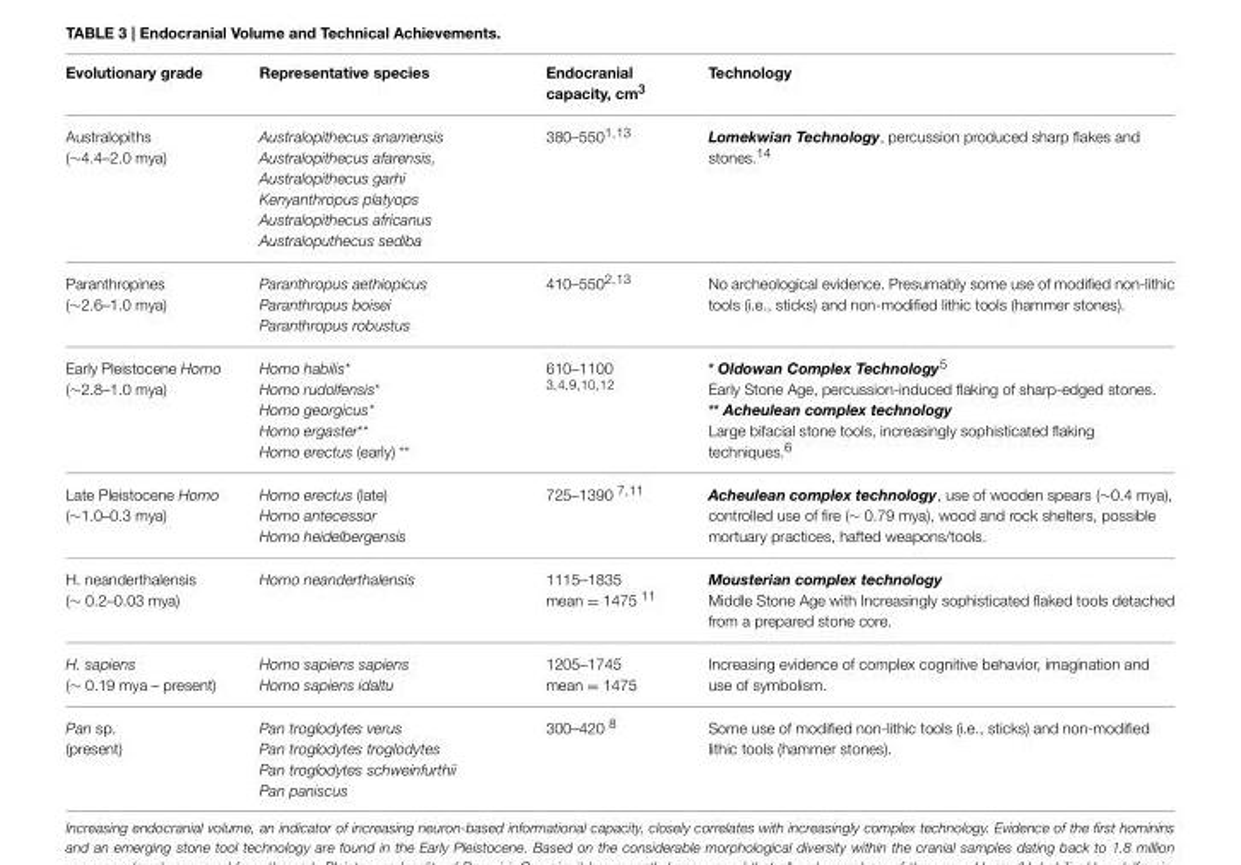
<table><thead><tr><td>Evolutionary grade</td><td>Representative species</td><td>Endocranial capacity, cm<sup>3</sup></td><td>Technology</td></tr></thead><tbody><tr><td>Australopiths (∼4.4–2.0 mya)</td><td>Australopithecus anamensis Australopithecus afarensis, Australopithecus garhi Kenyanthropus platyops Australopithecus africanus Australoputhecus sediba</td><td>380–550<sup>1,13</sup></td><td>Lomekwian Technology, percussion produced sharp flakes and stones.<sup>14</sup></td></tr><tr><td>Paranthropines (∼2.6–1.0 mya)</td><td>Paranthropus aethiopicus Paranthropus boisei Paranthropus robustus</td><td>410–550<sup>2,13</sup></td><td>No archeological evidence. Presumably some use of modified non-lithic tools (i.e., sticks) and non-modified lithic tools (hammer stones).</td></tr><tr><td>Early Pleistocene Homo (∼2.8–1.0 mya)</td><td>Homo habilis* Homo rudolfensis* Homo georgicus* Homo ergaster** Homo erectus (early) **</td><td>610–1100 <sup>3,4,9,10,12</sup></td><td>* Oldowan Complex Technology<sup>5</sup> Early Stone Age, percussion-induced flaking of sharp-edged stones. ** Acheulean complex technology Large bifacial stone tools, increasingly sophisticated flaking techniques.<sup>6</sup></td></tr><tr><td>Late Pleistocene Homo (∼1.0–0.3 mya)</td><td>Homo erectus (late) Homo antecessor Homo heidelbergensis</td><td>725–1390 <sup>7,11</sup></td><td>Acheulean complex technology, use of wooden spears (∼0.4 mya), controlled use of fire (∼ 0.79 mya), wood and rock shelters, possible mortuary practices, hafted weapons/tools.</td></tr><tr><td>H. neanderthalensis (∼ 0.2–0.03 mya)</td><td>Homo neanderthalensis</td><td>1115–1835 mean = 1475 <sup>11</sup></td><td>Mousterian complex technology Middle Stone Age with Increasingly sophisticated flaked tools detached from a prepared stone core.</td></tr><tr><td>H. sapiens (∼ 0.19 mya – present)</td><td>Homo sapiens sapiens Homo sapiens idaltu</td><td>1205–1745 mean = 1475</td><td>Increasing evidence of complex cognitive behavior, imagination and use of symbolism.</td></tr><tr><td>Pan sp. (present)</td><td>Pan troglodytes verus Pan troglodytes troglodytes Pan troglodytes schweinfurthii Pan paniscus</td><td>300–420 <sup>8</sup></td><td>Some use of modified non-lithic tools (i.e., sticks) and non-modified lithic tools (hammer stones).</td></tr></tbody></table>